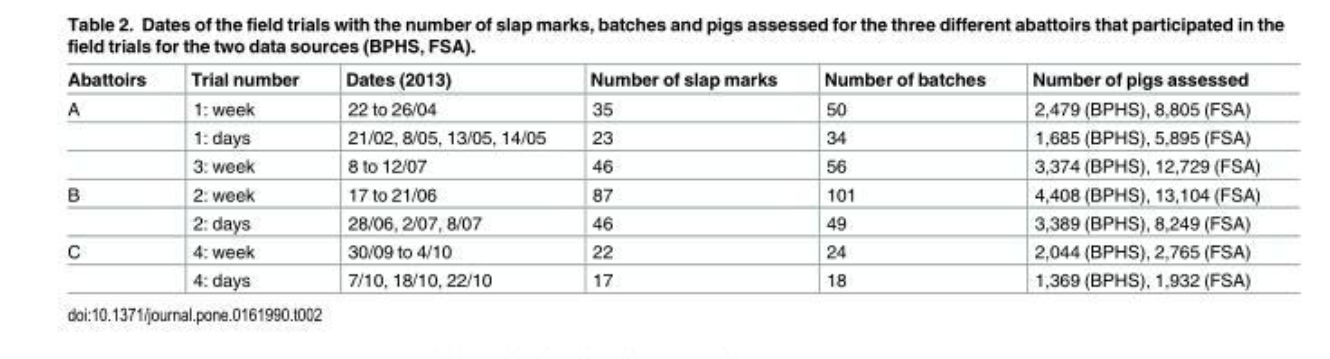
<table><thead><tr><td>Abattoirs</td><td>Trial number</td><td>Dates (2013)</td><td>Number of slap marks</td><td>Number of batches</td><td>Number of pigs assessed</td></tr></thead><tbody><tr><td rowspan="3">A</td><td>1: week</td><td>22 to 26/04</td><td>35</td><td>50</td><td>2,479 (BPHS), 8,805 (FSA)</td></tr><tr><td>1: days</td><td>21/02, 8/05, 13/05, 14/05</td><td>23</td><td>34</td><td>1,685 (BPHS), 5,895 (FSA)</td></tr><tr><td>3: week</td><td>8 to 12/07</td><td>46</td><td>56</td><td>3,374 (BPHS), 12,729 (FSA)</td></tr><tr><td rowspan="2">B</td><td>2: week</td><td>17 to 21/06</td><td>87</td><td>101</td><td>4,408 (BPHS), 13,104 (FSA)</td></tr><tr><td>2: days</td><td>28/06, 2/07, 8/07</td><td>46</td><td>49</td><td>3,389 (BPHS), 8,249 (FSA)</td></tr><tr><td rowspan="2">C</td><td>4: week</td><td>30/09 to 4/10</td><td>22</td><td>24</td><td>2,044 (BPHS), 2,765 (FSA)</td></tr><tr><td>4: days</td><td>7/10, 18/10, 22/10</td><td>17</td><td>18</td><td>1,369 (BPHS), 1,932 (FSA)</td></tr></tbody></table>